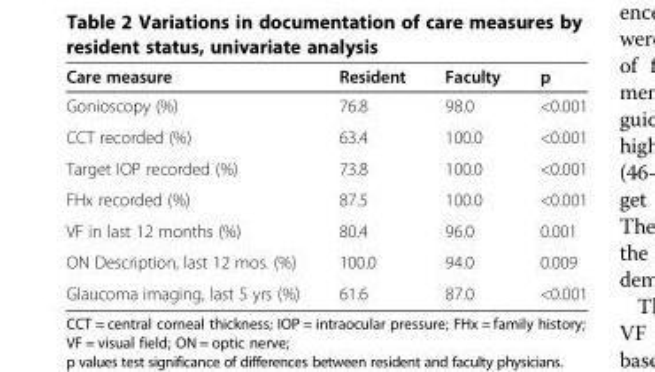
<table><thead><tr><td>Care measure</td><td>Resident</td><td>Faculty</td><td>p</td></tr></thead><tbody><tr><td>Gonioscopy (%)</td><td>76.8</td><td>98.0</td><td>&lt;0.001</td></tr><tr><td>CCT recorded (%)</td><td>63.4</td><td>100.0</td><td>&lt;0.001</td></tr><tr><td>Target IOP recorded (%)</td><td>73.8</td><td>100.0</td><td>&lt;0.001</td></tr><tr><td>FHx recorded (%)</td><td>87.5</td><td>100.0</td><td>&lt;0.001</td></tr><tr><td>VF in last 12 months (%)</td><td>80.4</td><td>96.0</td><td>0.001</td></tr><tr><td>ON Description, last 12 mos. (%)</td><td>100.0</td><td>94.0</td><td>0.009</td></tr><tr><td>Glaucoma imaging, last 5 yrs (%)</td><td>61.6</td><td>87.0</td><td>&lt;0.001</td></tr></tbody></table>